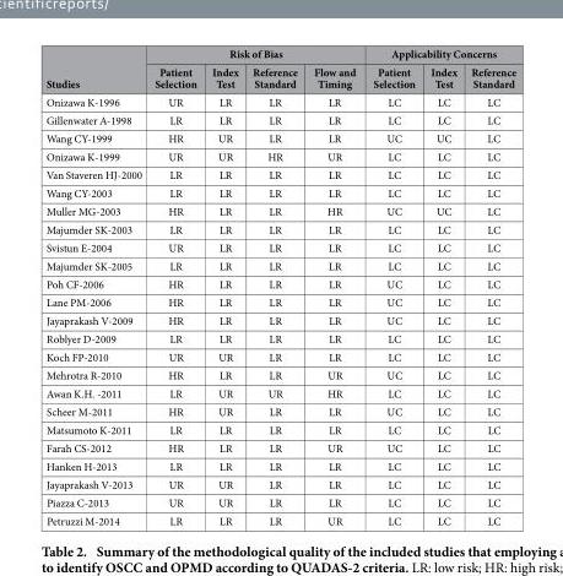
<table><thead><tr><td rowspan="2">Studies</td><td colspan="4">Risk of Bias</td><td colspan="3">Applicability Concerns</td></tr><tr><td>Patient Selection</td><td>Index Test</td><td>Reference Standard</td><td>Flow and Timing</td><td>Patient Selection</td><td>Index Test</td><td>Reference Standard</td></tr></thead><tbody><tr><td>Onizawa K-1996</td><td>UR</td><td>LR</td><td>LR</td><td>LR</td><td>LC</td><td>LC</td><td>LC</td></tr><tr><td>Gillenwater A-1998</td><td>LR</td><td>LR</td><td>LR</td><td>LR</td><td>LC</td><td>LC</td><td>LC</td></tr><tr><td>Wang CY-1999</td><td>HR</td><td>UR</td><td>LR</td><td>LR</td><td>UC</td><td>UC</td><td>LC</td></tr><tr><td>Onizawa K-1999</td><td>UR</td><td>UR</td><td>HR</td><td>UR</td><td>LC</td><td>LC</td><td>LC</td></tr><tr><td>Van Staveren HJ-2000</td><td>LR</td><td>LR</td><td>LR</td><td>LR</td><td>LC</td><td>LC</td><td>LC</td></tr><tr><td>Wang CY-2003</td><td>LR</td><td>LR</td><td>LR</td><td>LR</td><td>LC</td><td>LC</td><td>LC</td></tr><tr><td>Muller MG-2003</td><td>HR</td><td>LR</td><td>LR</td><td>HR</td><td>UC</td><td>UC</td><td>LC</td></tr><tr><td>Majumder SK-2003</td><td>LR</td><td>LR</td><td>LR</td><td>LR</td><td>LC</td><td>LC</td><td>LC</td></tr><tr><td>Svistun E-2004</td><td>UR</td><td>LR</td><td>LR</td><td>LR</td><td>LC</td><td>LC</td><td>LC</td></tr><tr><td>Majumder SK-2005</td><td>LR</td><td>LR</td><td>LR</td><td>LR</td><td>LC</td><td>LC</td><td>LC</td></tr><tr><td>Poh CF-2006</td><td>HR</td><td>LR</td><td>LR</td><td>LR</td><td>UC</td><td>LC</td><td>LC</td></tr><tr><td>Lane PM-2006</td><td>HR</td><td>LR</td><td>LR</td><td>LR</td><td>UC</td><td>LC</td><td>LC</td></tr><tr><td>Jayaprakash V-2009</td><td>HR</td><td>LR</td><td>LR</td><td>LR</td><td>UC</td><td>LC</td><td>LC</td></tr><tr><td>Roblyer D-2009</td><td>LR</td><td>LR</td><td>LR</td><td>LR</td><td>LC</td><td>LC</td><td>LC</td></tr><tr><td>Koch FP-2010</td><td>UR</td><td>UR</td><td>LR</td><td>LR</td><td>LC</td><td>LC</td><td>LC</td></tr><tr><td>Mehrotra R-2010</td><td>HR</td><td>LR</td><td>LR</td><td>UR</td><td>UC</td><td>LC</td><td>LC</td></tr><tr><td>Awan K.H. -2011</td><td>LR</td><td>UR</td><td>UR</td><td>HR</td><td>LC</td><td>LC</td><td>LC</td></tr><tr><td>Scheer M-2011</td><td>HR</td><td>UR</td><td>LR</td><td>LR</td><td>UC</td><td>LC</td><td>LC</td></tr><tr><td>Matsumoto K-2011</td><td>LR</td><td>LR</td><td>LR</td><td>LR</td><td>LC</td><td>LC</td><td>LC</td></tr><tr><td>Farah CS-2012</td><td>HR</td><td>LR</td><td>LR</td><td>UR</td><td>UC</td><td>LC</td><td>LC</td></tr><tr><td>Hanken H-2013</td><td>LR</td><td>LR</td><td>LR</td><td>LR</td><td>LC</td><td>LC</td><td>LC</td></tr><tr><td>Jayaprakash V-2013</td><td>UR</td><td>UR</td><td>LR</td><td>LR</td><td>LC</td><td>LC</td><td>LC</td></tr><tr><td>Piazza C-2013</td><td>UR</td><td>UR</td><td>LR</td><td>LR</td><td>LC</td><td>LC</td><td>LC</td></tr><tr><td>Petruzzi M-2014</td><td>LR</td><td>LR</td><td>LR</td><td>UR</td><td>LC</td><td>LC</td><td>LC</td></tr></tbody></table>